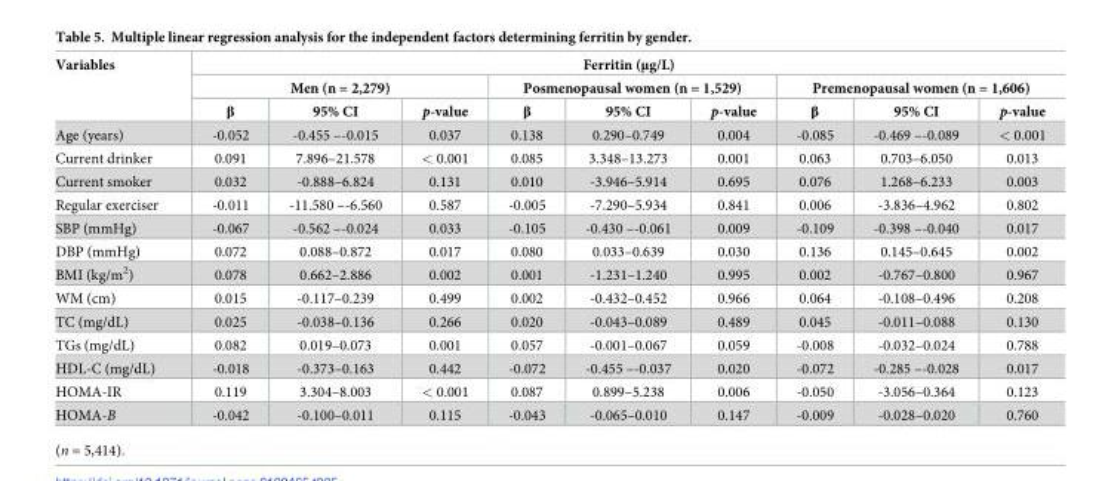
<table><thead><tr><td rowspan="3">Variables</td><td colspan="9">Ferritin (μg/L)</td></tr><tr><td colspan="3">Men (n = 2,279)</td><td colspan="3">Posmenopausal women (n = 1,529)</td><td colspan="3">Premenopausal women (n = 1,606)</td></tr><tr><td>β</td><td>95% CI</td><td>p-value</td><td>β</td><td>95% CI</td><td>p-value</td><td>β</td><td>95% CI</td><td>p-value</td></tr></thead><tbody><tr><td>Age (years)</td><td>-0.052</td><td>-0.455 –-0.015</td><td>0.037</td><td>0.138</td><td>0.290–0.749</td><td>0.004</td><td>-0.085</td><td>-0.469 –-0.089</td><td>&lt; 0.001</td></tr><tr><td>Current drinker</td><td>0.091</td><td>7.896–21.578</td><td>&lt; 0.001</td><td>0.085</td><td>3.348–13.273</td><td>0.001</td><td>0.063</td><td>0.703–6.050</td><td>0.013</td></tr><tr><td>Current smoker</td><td>0.032</td><td>-0.888–6.824</td><td>0.131</td><td>0.010</td><td>-3.946–5.914</td><td>0.695</td><td>0.076</td><td>1.268–6.233</td><td>0.003</td></tr><tr><td>Regular exerciser</td><td>-0.011</td><td>-11.580 –-6.560</td><td>0.587</td><td>-0.005</td><td>-7.290–5.934</td><td>0.841</td><td>0.006</td><td>-3.836–4.962</td><td>0.802</td></tr><tr><td>SBP (mmHg)</td><td>-0.067</td><td>-0.562 –-0.024</td><td>0.033</td><td>-0.105</td><td>-0.430 –-0.061</td><td>0.009</td><td>-0.109</td><td>-0.398 –-0.040</td><td>0.017</td></tr><tr><td>DBP (mmHg)</td><td>0.072</td><td>0.088–0.872</td><td>0.017</td><td>0.080</td><td>0.033–0.639</td><td>0.030</td><td>0.136</td><td>0.145–0.645</td><td>0.002</td></tr><tr><td>BMI (kg/m<sup>2</sup>)</td><td>0.078</td><td>0.662–2.886</td><td>0.002</td><td>0.001</td><td>-1.231–1.240</td><td>0.995</td><td>0.002</td><td>-0.767–0.800</td><td>0.967</td></tr><tr><td>WM (cm)</td><td>0.015</td><td>-0.117–0.239</td><td>0.499</td><td>0.002</td><td>-0.432–0.452</td><td>0.966</td><td>0.064</td><td>-0.108–0.496</td><td>0.208</td></tr><tr><td>TC (mg/dL)</td><td>0.025</td><td>-0.038–0.136</td><td>0.266</td><td>0.020</td><td>-0.043–0.089</td><td>0.489</td><td>0.045</td><td>-0.011–0.088</td><td>0.130</td></tr><tr><td>TGs (mg/dL)</td><td>0.082</td><td>0.019–0.073</td><td>0.001</td><td>0.057</td><td>-0.001–0.067</td><td>0.059</td><td>-0.008</td><td>-0.032–0.024</td><td>0.788</td></tr><tr><td>HDL-C (mg/dL)</td><td>-0.018</td><td>-0.373–0.163</td><td>0.442</td><td>-0.072</td><td>-0.455 –-0.037</td><td>0.020</td><td>-0.072</td><td>-0.285 –-0.028</td><td>0.017</td></tr><tr><td>HOMA-IR</td><td>0.119</td><td>3.304–8.003</td><td>&lt; 0.001</td><td>0.087</td><td>0.899–5.238</td><td>0.006</td><td>-0.050</td><td>-3.056–0.364</td><td>0.123</td></tr><tr><td>HOMA-B</td><td>-0.042</td><td>-0.100–0.011</td><td>0.115</td><td>-0.043</td><td>-0.065–0.010</td><td>0.147</td><td>-0.009</td><td>-0.028–0.020</td><td>0.760</td></tr></tbody></table>